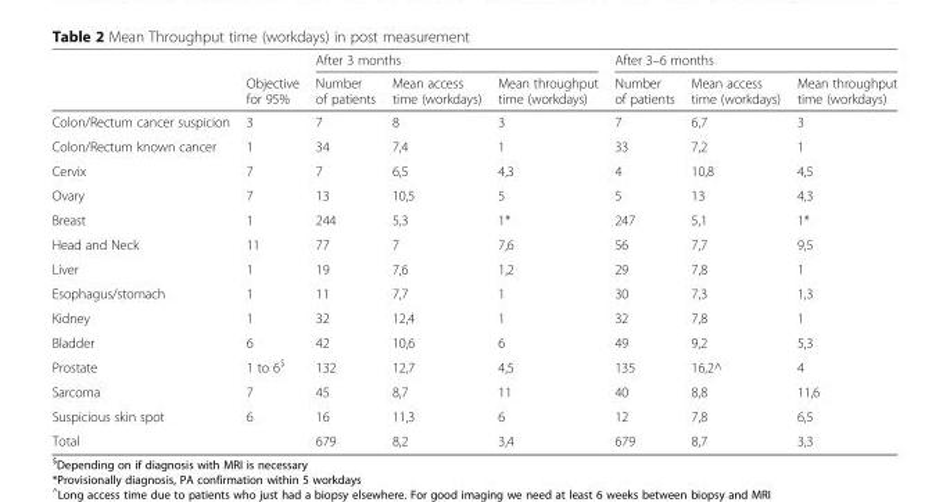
<table><thead><tr><td rowspan="2"></td><td rowspan="2">Objective for 95%</td><td colspan="3">After 3 months</td><td colspan="3">After 3–6 months</td></tr><tr><td>Number of patients</td><td>Mean access time (workdays)</td><td>Mean throughput time (workdays)</td><td>Number of patients</td><td>Mean access time (workdays)</td><td>Mean throughput time (workdays)</td></tr></thead><tbody><tr><td>Colon/Rectum cancer suspicion</td><td>3</td><td>7</td><td>8</td><td>3</td><td>7</td><td>6,7</td><td>3</td></tr><tr><td>Colon/Rectum known cancer</td><td>1</td><td>34</td><td>7,4</td><td>1</td><td>33</td><td>7,2</td><td>1</td></tr><tr><td>Cervix</td><td>7</td><td>7</td><td>6,5</td><td>4,3</td><td>4</td><td>10,8</td><td>4,5</td></tr><tr><td>Ovary</td><td>7</td><td>13</td><td>10,5</td><td>5</td><td>5</td><td>13</td><td>4,3</td></tr><tr><td>Breast</td><td>1</td><td>244</td><td>5,3</td><td>1*</td><td>247</td><td>5,1</td><td>1*</td></tr><tr><td>Head and Neck</td><td>11</td><td>77</td><td>7</td><td>7,6</td><td>56</td><td>7,7</td><td>9,5</td></tr><tr><td>Liver</td><td>1</td><td>19</td><td>7,6</td><td>1,2</td><td>29</td><td>7,8</td><td>1</td></tr><tr><td>Esophagus/stomach</td><td>1</td><td>11</td><td>7,7</td><td>1</td><td>30</td><td>7,3</td><td>1,3</td></tr><tr><td>Kidney</td><td>1</td><td>32</td><td>12,4</td><td>1</td><td>32</td><td>7,8</td><td>1</td></tr><tr><td>Bladder</td><td>6</td><td>42</td><td>10,6</td><td>6</td><td>49</td><td>9,2</td><td>5,3</td></tr><tr><td>Prostate</td><td>1 to 6<sup>$</sup></td><td>132</td><td>12,7</td><td>4,5</td><td>135</td><td>16,2^</td><td>4</td></tr><tr><td>Sarcoma</td><td>7</td><td>45</td><td>8,7</td><td>11</td><td>40</td><td>8,8</td><td>11,6</td></tr><tr><td>Suspicious skin spot</td><td>6</td><td>16</td><td>11,3</td><td>6</td><td>12</td><td>7,8</td><td>6,5</td></tr><tr><td>Total</td><td></td><td>679</td><td>8,2</td><td>3,4</td><td>679</td><td>8,7</td><td>3,3</td></tr></tbody></table>